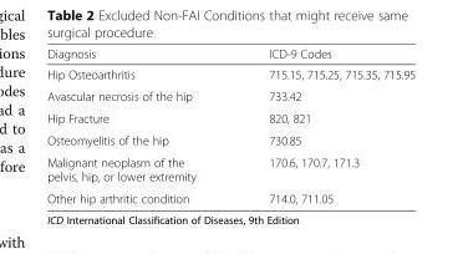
<table><thead><tr><td>Diagnosis</td><td>ICD-9 Codes</td></tr></thead><tbody><tr><td>Hip Osteoarthritis</td><td>715.15, 715.25, 715.35, 715.95</td></tr><tr><td>Avascular necrosis of the hip</td><td>733.42</td></tr><tr><td>Hip Fracture</td><td>820, 821</td></tr><tr><td>Osteomyelitis of the hip</td><td>730.85</td></tr><tr><td>Malignant neoplasm of the pelvis, hip, or lower extremity</td><td>170.6, 170.7, 171.3</td></tr><tr><td>Other hip arthritic condition</td><td>714.0, 711.05</td></tr></tbody></table>